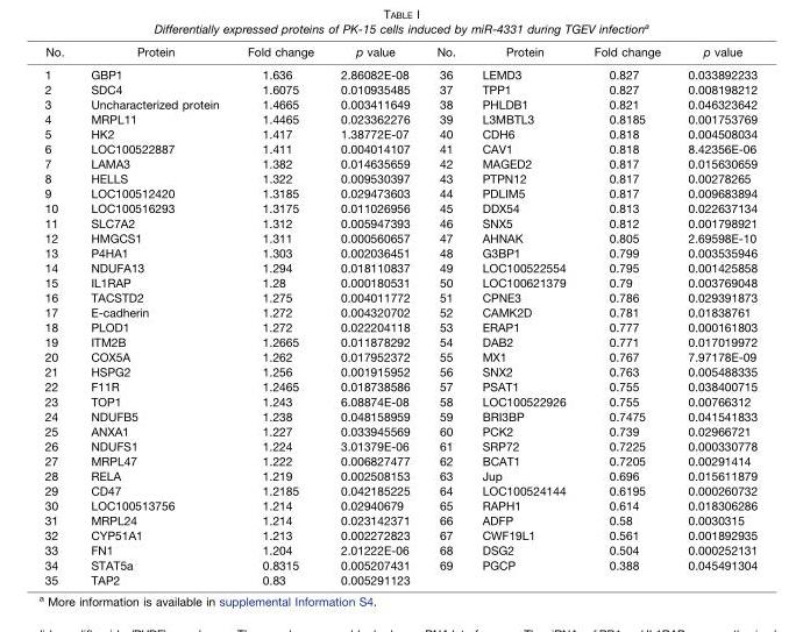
<table><thead><tr><td>No.</td><td>Protein</td><td>Fold change</td><td>p value</td><td>No.</td><td>Protein</td><td>Fold change</td><td>p value</td></tr></thead><tbody><tr><td>1</td><td>GBP1</td><td>1.636</td><td>2.86082E-08</td><td>36</td><td>LEMD3</td><td>0.827</td><td>0.033892233</td></tr><tr><td>2</td><td>SDC4</td><td>1.6075</td><td>0.010935485</td><td>37</td><td>TPP1</td><td>0.827</td><td>0.008198212</td></tr><tr><td>3</td><td>Uncharacterized protein</td><td>1.4665</td><td>0.003411649</td><td>38</td><td>PHLDB1</td><td>0.821</td><td>0.046323642</td></tr><tr><td>4</td><td>MRPL11</td><td>1.4465</td><td>0.023362276</td><td>39</td><td>L3MBTL3</td><td>0.8185</td><td>0.001753769</td></tr><tr><td>5</td><td>HK2</td><td>1.417</td><td>1.38772E-07</td><td>40</td><td>CDH6</td><td>0.818</td><td>0.004508034</td></tr><tr><td>6</td><td>LOC100522887</td><td>1.411</td><td>0.004014107</td><td>41</td><td>CAV1</td><td>0.818</td><td>8.42356E-06</td></tr><tr><td>7</td><td>LAMA3</td><td>1.382</td><td>0.014635659</td><td>42</td><td>MAGED2</td><td>0.817</td><td>0.015630659</td></tr><tr><td>8</td><td>HELLS</td><td>1.322</td><td>0.009530397</td><td>43</td><td>PTPN12</td><td>0.817</td><td>0.00278265</td></tr><tr><td>9</td><td>LOC100512420</td><td>1.3185</td><td>0.029473603</td><td>44</td><td>PDLIM5</td><td>0.817</td><td>0.009683894</td></tr><tr><td>10</td><td>LOC100516293</td><td>1.3175</td><td>0.011026956</td><td>45</td><td>DDX54</td><td>0.813</td><td>0.022637134</td></tr><tr><td>11</td><td>SLC7A2</td><td>1.312</td><td>0.005947393</td><td>46</td><td>SNX5</td><td>0.812</td><td>0.001798921</td></tr><tr><td>12</td><td>HMGCS1</td><td>1.311</td><td>0.000560657</td><td>47</td><td>AHNAK</td><td>0.805</td><td>2.69598E-10</td></tr><tr><td>13</td><td>P4HA1</td><td>1.303</td><td>0.002036451</td><td>48</td><td>G3BP1</td><td>0.799</td><td>0.003535946</td></tr><tr><td>14</td><td>NDUFA13</td><td>1.294</td><td>0.018110837</td><td>49</td><td>LOC100522554</td><td>0.795</td><td>0.001425858</td></tr><tr><td>15</td><td>IL1RAP</td><td>1.28</td><td>0.000180531</td><td>50</td><td>LOC100621379</td><td>0.79</td><td>0.003769048</td></tr><tr><td>16</td><td>TACSTD2</td><td>1.275</td><td>0.004011772</td><td>51</td><td>CPNE3</td><td>0.786</td><td>0.029391873</td></tr><tr><td>17</td><td>E-cadherin</td><td>1.272</td><td>0.004320702</td><td>52</td><td>CAMK2D</td><td>0.781</td><td>0.01838761</td></tr><tr><td>18</td><td>PLOD1</td><td>1.272</td><td>0.022204118</td><td>53</td><td>ERAP1</td><td>0.777</td><td>0.000161803</td></tr><tr><td>19</td><td>ITM2B</td><td>1.2665</td><td>0.011878292</td><td>54</td><td>DAB2</td><td>0.771</td><td>0.017019972</td></tr><tr><td>20</td><td>COX5A</td><td>1.262</td><td>0.017952372</td><td>55</td><td>MX1</td><td>0.767</td><td>7.97178E-09</td></tr><tr><td>21</td><td>HSPG2</td><td>1.256</td><td>0.001915952</td><td>56</td><td>SNX2</td><td>0.763</td><td>0.005488335</td></tr><tr><td>22</td><td>F11R</td><td>1.2465</td><td>0.018738586</td><td>57</td><td>PSAT1</td><td>0.755</td><td>0.038400715</td></tr><tr><td>23</td><td>TOP1</td><td>1.243</td><td>6.08874E-08</td><td>58</td><td>LOC100522926</td><td>0.755</td><td>0.00766312</td></tr><tr><td>24</td><td>NDUFB5</td><td>1.238</td><td>0.048158959</td><td>59</td><td>BRI3BP</td><td>0.7475</td><td>0.041541833</td></tr><tr><td>25</td><td>ANXA1</td><td>1.227</td><td>0.033945569</td><td>60</td><td>PCK2</td><td>0.739</td><td>0.02966721</td></tr><tr><td>26</td><td>NDUFS1</td><td>1.224</td><td>3.01379E-06</td><td>61</td><td>SRP72</td><td>0.7225</td><td>0.000330778</td></tr><tr><td>27</td><td>MRPL47</td><td>1.222</td><td>0.006827477</td><td>62</td><td>BCAT1</td><td>0.7205</td><td>0.00291414</td></tr><tr><td>28</td><td>RELA</td><td>1.219</td><td>0.002508153</td><td>63</td><td>Jup</td><td>0.696</td><td>0.015611879</td></tr><tr><td>29</td><td>CD47</td><td>1.2185</td><td>0.042185225</td><td>64</td><td>LOC100524144</td><td>0.6195</td><td>0.000260732</td></tr><tr><td>30</td><td>LOC100513756</td><td>1.214</td><td>0.02940679</td><td>65</td><td>RAPH1</td><td>0.614</td><td>0.018306286</td></tr><tr><td>31</td><td>MRPL24</td><td>1.214</td><td>0.023142371</td><td>66</td><td>ADFP</td><td>0.58</td><td>0.0030315</td></tr><tr><td>32</td><td>CYP51A1</td><td>1.213</td><td>0.002272823</td><td>67</td><td>CWF19L1</td><td>0.561</td><td>0.001892935</td></tr><tr><td>33</td><td>FN1</td><td>1.204</td><td>2.01222E-06</td><td>68</td><td>DSG2</td><td>0.504</td><td>0.000252131</td></tr><tr><td>34</td><td>STAT5a</td><td>0.8315</td><td>0.005207431</td><td>69</td><td>PGCP</td><td>0.388</td><td>0.045491304</td></tr><tr><td>35</td><td>TAP2</td><td>0.83</td><td>0.005291123</td><td></td><td></td><td></td><td></td></tr></tbody></table>